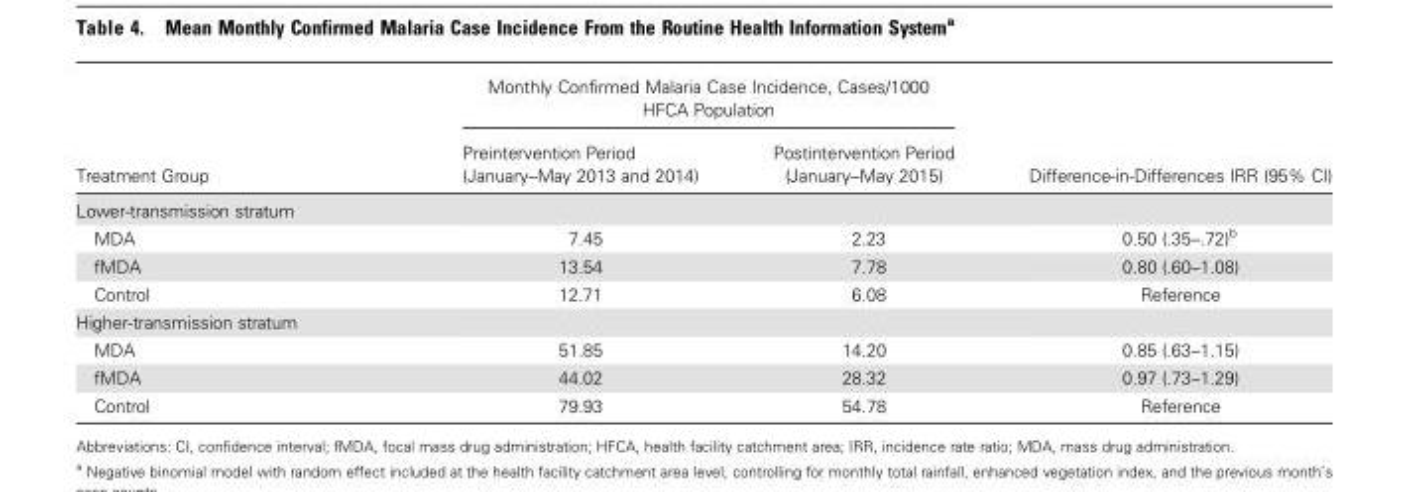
<table><thead><tr><td rowspan="2">Treatment Group</td><td colspan="2">Monthly Confirmed Malaria Case Incidence, Cases/1000 HFCA Population</td><td rowspan="2">Difference-in-Differences IRR (95% CI)</td></tr><tr><td>Preintervention Period (January–May 2013 and 2014)</td><td>Postintervention Period (January–May 2015)</td></tr></thead><tbody><tr><td colspan="4">Lower-transmission stratum</td></tr><tr><td>MDA</td><td>7.45</td><td>2.23</td><td>0.50 (.35–.72)<sup>b</sup></td></tr><tr><td>fMDA</td><td>13.54</td><td>7.78</td><td>0.80 (.60–1.08)</td></tr><tr><td>Control</td><td>12.71</td><td>6.08</td><td>Reference</td></tr><tr><td colspan="4">Higher-transmission stratum</td></tr><tr><td>MDA</td><td>51.85</td><td>14.20</td><td>0.85 (.63–1.15)</td></tr><tr><td>fMDA</td><td>44.02</td><td>28.32</td><td>0.97 (.73–1.29)</td></tr><tr><td>Control</td><td>79.93</td><td>54.78</td><td>Reference</td></tr></tbody></table>